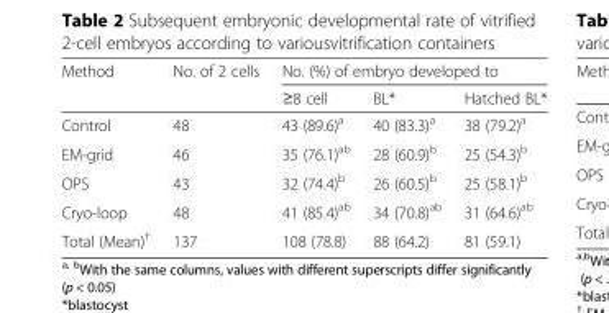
<table><thead><tr><td rowspan="2">Method</td><td rowspan="2">No. of 2 cells</td><td colspan="3">No. (%) of embryo developed to</td></tr><tr><td>≥8 cell</td><td>BL*</td><td>Hatched BL*</td></tr></thead><tbody><tr><td>Control</td><td>48</td><td>43 (89.6)<sup>a</sup></td><td>40 (83.3)<sup>a</sup></td><td>38 (79.2)<sup>a</sup></td></tr><tr><td>EM-grid</td><td>46</td><td>35 (76.1)<sup>ab</sup></td><td>28 (60.9)<sup>b</sup></td><td>25 (54.3)<sup>b</sup></td></tr><tr><td>OPS</td><td>43</td><td>32 (74.4)<sup>b</sup></td><td>26 (60.5)<sup>b</sup></td><td>25 (58.1)<sup>b</sup></td></tr><tr><td>Cryo-loop</td><td>48</td><td>41 (85.4)<sup>ab</sup></td><td>34 (70.8)<sup>ab</sup></td><td>31 (64.6)<sup>ab</sup></td></tr><tr><td>Total (Mean)<sup>†</sup></td><td>137</td><td>108 (78.8)</td><td>88 (64.2)</td><td>81 (59.1)</td></tr></tbody></table>